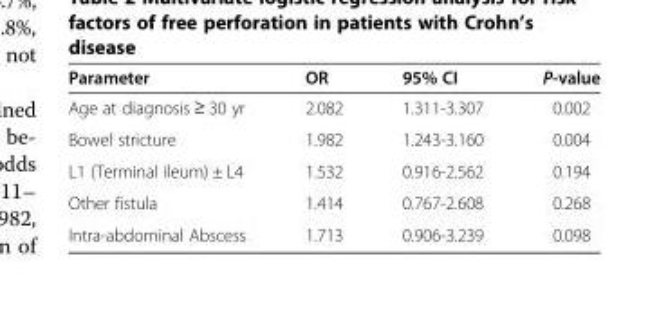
<table><thead><tr><td>Parameter</td><td>OR</td><td>95% CI</td><td>P-value</td></tr></thead><tbody><tr><td>Age at diagnosis ≥ 30 yr</td><td>2.082</td><td>1.311-3.307</td><td>0.002</td></tr><tr><td>Bowel stricture</td><td>1.982</td><td>1.243-3.160</td><td>0.004</td></tr><tr><td>L1 (Terminal ileum) ± L4</td><td>1.532</td><td>0.916-2.562</td><td>0.194</td></tr><tr><td>Other fistula</td><td>1.414</td><td>0.767-2.608</td><td>0.268</td></tr><tr><td>Intra-abdominal Abscess</td><td>1.713</td><td>0.906-3.239</td><td>0.098</td></tr></tbody></table>